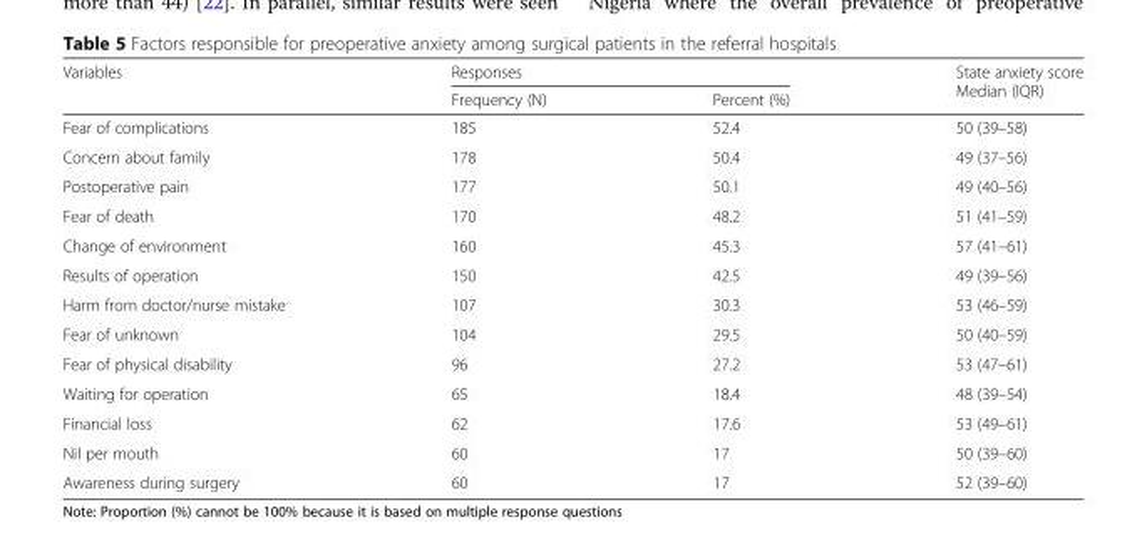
<table><thead><tr><td rowspan="2">Variables</td><td colspan="2">Responses</td><td rowspan="2">State anxiety score Median (IQR)</td></tr><tr><td>Frequency (N)</td><td>Percent (%)</td></tr></thead><tbody><tr><td>Fear of complications</td><td>185</td><td>52.4</td><td>50 (39–58)</td></tr><tr><td>Concern about family</td><td>178</td><td>50.4</td><td>49 (37–56)</td></tr><tr><td>Postoperative pain</td><td>177</td><td>50.1</td><td>49 (40–56)</td></tr><tr><td>Fear of death</td><td>170</td><td>48.2</td><td>51 (41–59)</td></tr><tr><td>Change of environment</td><td>160</td><td>45.3</td><td>57 (41–61)</td></tr><tr><td>Results of operation</td><td>150</td><td>42.5</td><td>49 (39–56)</td></tr><tr><td>Harm from doctor/nurse mistake</td><td>107</td><td>30.3</td><td>53 (46–59)</td></tr><tr><td>Fear of unknown</td><td>104</td><td>29.5</td><td>50 (40–59)</td></tr><tr><td>Fear of physical disability</td><td>96</td><td>27.2</td><td>53 (47–61)</td></tr><tr><td>Waiting for operation</td><td>65</td><td>18.4</td><td>48 (39–54)</td></tr><tr><td>Financial loss</td><td>62</td><td>17.6</td><td>53 (49–61)</td></tr><tr><td>Nil per mouth</td><td>60</td><td>17</td><td>50 (39–60)</td></tr><tr><td>Awareness during surgery</td><td>60</td><td>17</td><td>52 (39–60)</td></tr></tbody></table>